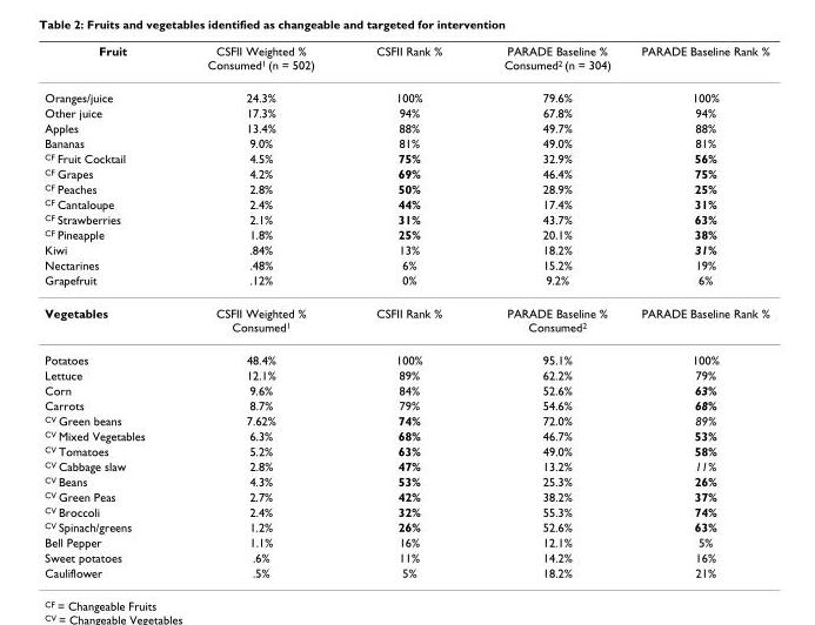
<table><thead><tr><td>Fruit</td><td>CSFII Weighted % Consumed<sup>1</sup> (n = 502)</td><td>CSFII Rank %</td><td>PARADE Baseline % Consumed<sup>2</sup> (n = 304)</td><td>PARADE Baseline Rank %</td></tr></thead><tbody><tr><td>Oranges/juice</td><td>24.3%</td><td>100%</td><td>79.6%</td><td>100%</td></tr><tr><td>Other juice</td><td>17.3%</td><td>94%</td><td>67.8%</td><td>94%</td></tr><tr><td>Apples</td><td>13.4%</td><td>88%</td><td>49.7%</td><td>88%</td></tr><tr><td>Bananas</td><td>9.0%</td><td>81%</td><td>49.0%</td><td>81%</td></tr><tr><td><sup>CF</sup> Fruit Cocktail</td><td>4.5%</td><td>75%</td><td>32.9%</td><td>56%</td></tr><tr><td><sup>CF</sup> Grapes</td><td>4.2%</td><td>69%</td><td>46.4%</td><td>75%</td></tr><tr><td><sup>CF</sup> Peaches</td><td>2.8%</td><td>50%</td><td>28.9%</td><td>25%</td></tr><tr><td><sup>CF</sup> Cantaloupe</td><td>2.4%</td><td>44%</td><td>17.4%</td><td>31%</td></tr><tr><td><sup>CF</sup> Strawberries</td><td>2.1%</td><td>31%</td><td>43.7%</td><td>63%</td></tr><tr><td><sup>CF</sup> Pineapple</td><td>1.8%</td><td>25%</td><td>20.1%</td><td>38%</td></tr><tr><td>Kiwi</td><td>.84%</td><td>13%</td><td>18.2%</td><td>31%</td></tr><tr><td>Nectarines</td><td>.48%</td><td>6%</td><td>15.2%</td><td>19%</td></tr><tr><td>Grapefruit</td><td>.12%</td><td>0%</td><td>9.2%</td><td>6%</td></tr><tr><td>Vegetables</td><td>CSFII Weighted % Consumed<sup>1</sup></td><td>CSFII Rank %</td><td>PARADE Baseline % Consumed<sup>2</sup></td><td>PARADE Baseline Rank %</td></tr><tr><td>Potatoes</td><td>48.4%</td><td>100%</td><td>95.1%</td><td>100%</td></tr><tr><td>Lettuce</td><td>12.1%</td><td>89%</td><td>62.2%</td><td>79%</td></tr><tr><td>Corn</td><td>9.6%</td><td>84%</td><td>52.6%</td><td>63%</td></tr><tr><td>Carrots</td><td>8.7%</td><td>79%</td><td>54.6%</td><td>68%</td></tr><tr><td><sup>CV</sup> Green beans</td><td>7.62%</td><td>74%</td><td>72.0%</td><td>89%</td></tr><tr><td><sup>CV</sup> Mixed Vegetables</td><td>6.3%</td><td>68%</td><td>46.7%</td><td>53%</td></tr><tr><td><sup>CV</sup> Tomatoes</td><td>5.2%</td><td>63%</td><td>49.0%</td><td>58%</td></tr><tr><td><sup>CV</sup> Cabbage slaw</td><td>2.8%</td><td>47%</td><td>13.2%</td><td>11%</td></tr><tr><td><sup>CV</sup> Beans</td><td>4.3%</td><td>53%</td><td>25.3%</td><td>26%</td></tr><tr><td><sup>CV</sup> Green Peas</td><td>2.7%</td><td>42%</td><td>38.2%</td><td>37%</td></tr><tr><td><sup>CV</sup> Broccoli</td><td>2.4%</td><td>32%</td><td>55.3%</td><td>74%</td></tr><tr><td><sup>CV</sup> Spinach/greens</td><td>1.2%</td><td>26%</td><td>52.6%</td><td>63%</td></tr><tr><td>Bell Pepper</td><td>1.1%</td><td>16%</td><td>12.1%</td><td>5%</td></tr><tr><td>Sweet potatoes</td><td>.6%</td><td>11%</td><td>14.2%</td><td>16%</td></tr><tr><td>Cauliflower</td><td>.5%</td><td>5%</td><td>18.2%</td><td>21%</td></tr></tbody></table>